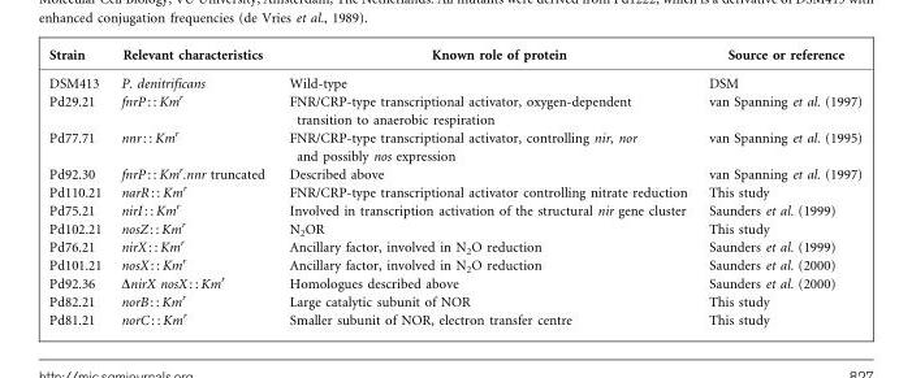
<table><thead><tr><td>Strain</td><td>Relevant characteristics</td><td>Known role of protein</td><td>Source or reference</td></tr></thead><tbody><tr><td>DSM413</td><td>P. denitrificans</td><td>Wild-type</td><td>DSM</td></tr><tr><td>Pd29.21</td><td>fnrP : : Km<sup>r</sup></td><td>FNR/CRP-type transcriptional activator, oxygen-dependent transition to anaerobic respiration</td><td>van Spanning et al. (1997)</td></tr><tr><td>Pd77.71</td><td>nnr : : Km<sup>r</sup></td><td>FNR/CRP-type transcriptional activator, controlling nir, nor and possibly nos expression</td><td>van Spanning et al. (1995)</td></tr><tr><td>Pd92.30</td><td>fnrP : : Km<sup>r</sup>.nnr truncated</td><td>Described above</td><td>van Spanning et al. (1997)</td></tr><tr><td>Pd110.21</td><td>narR : : Km<sup>r</sup></td><td>FNR/CRP-type transcriptional activator controlling nitrate reduction</td><td>This study</td></tr><tr><td>Pd75.21</td><td>nirI : : Km<sup>r</sup></td><td>Involved in transcription activation of the structural nir gene cluster</td><td>Saunders et al. (1999)</td></tr><tr><td>Pd102.21</td><td>nosZ : : Km<sup>r</sup></td><td>N<sub>2</sub>OR</td><td>This study</td></tr><tr><td>Pd76.21</td><td>nirX : : Km<sup>r</sup></td><td>Ancillary factor, involved in N<sub>2</sub>O reduction</td><td>Saunders et al. (1999)</td></tr><tr><td>Pd101.21</td><td>nosX : : Km<sup>r</sup></td><td>Ancillary factor, involved in N<sub>2</sub>O reduction</td><td>Saunders et al. (2000)</td></tr><tr><td>Pd92.36</td><td>ΔnirX nosX : : Km<sup>r</sup></td><td>Homologues described above</td><td>Saunders et al. (2000)</td></tr><tr><td>Pd82.21</td><td>norB : : Km<sup>r</sup></td><td>Large catalytic subunit of NOR</td><td>This study</td></tr><tr><td>Pd81.21</td><td>norC : : Km<sup>r</sup></td><td>Smaller subunit of NOR, electron transfer centre</td><td>This study</td></tr></tbody></table>